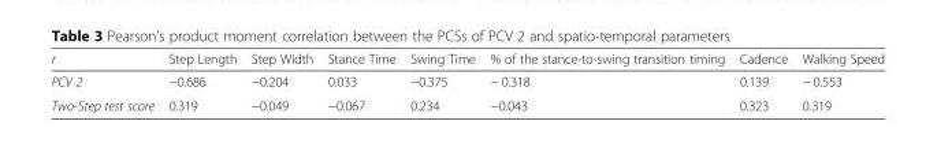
<table><thead><tr><td>r</td><td>Step Length</td><td>Step Width</td><td>Stance Time</td><td>Swing Time</td><td>% of the stance-to-swing transition timing</td><td>Cadence</td><td>Walking Speed</td></tr></thead><tbody><tr><td>PCV 2</td><td>−0.686</td><td>−0.204</td><td>0.033</td><td>−0.375</td><td>− 0.318</td><td>0.139</td><td>− 0.553</td></tr><tr><td>Two-Step test score</td><td>0.319</td><td>−0.049</td><td>−0.067</td><td>0.234</td><td>−0.043</td><td>0.323</td><td>0.319</td></tr></tbody></table>